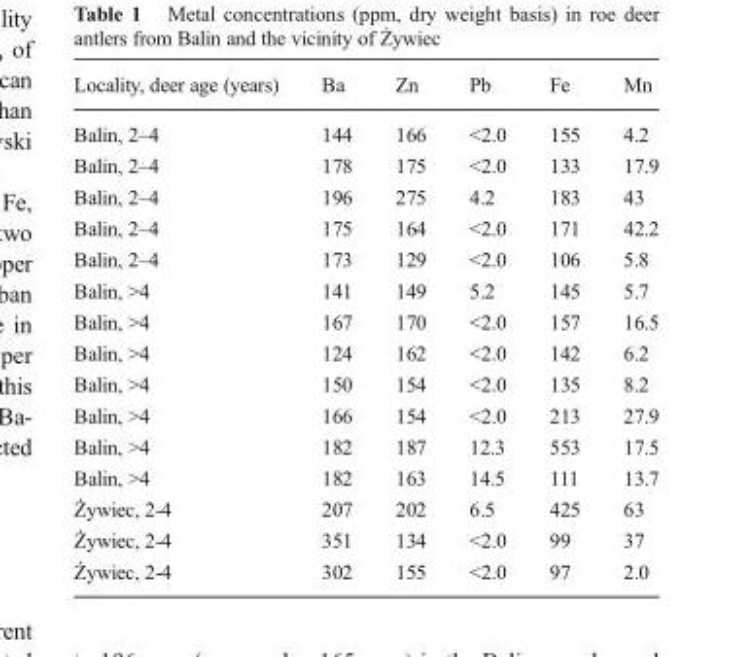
<table><thead><tr><td>Locality, deer age (years)</td><td>Ba</td><td>Zn</td><td>Pb</td><td>Fe</td><td>Mn</td></tr></thead><tbody><tr><td>Balin, 2–4</td><td>144</td><td>166</td><td>&lt;2.0</td><td>155</td><td>4.2</td></tr><tr><td>Balin, 2–4</td><td>178</td><td>175</td><td>&lt;2.0</td><td>133</td><td>17.9</td></tr><tr><td>Balin, 2–4</td><td>196</td><td>275</td><td>4.2</td><td>183</td><td>43</td></tr><tr><td>Balin, 2–4</td><td>175</td><td>164</td><td>&lt;2.0</td><td>171</td><td>42.2</td></tr><tr><td>Balin, 2–4</td><td>173</td><td>129</td><td>&lt;2.0</td><td>106</td><td>5.8</td></tr><tr><td>Balin, &gt;4</td><td>141</td><td>149</td><td>5.2</td><td>145</td><td>5.7</td></tr><tr><td>Balin, &gt;4</td><td>167</td><td>170</td><td>&lt;2.0</td><td>157</td><td>16.5</td></tr><tr><td>Balin, &gt;4</td><td>124</td><td>162</td><td>&lt;2.0</td><td>142</td><td>6.2</td></tr><tr><td>Balin, &gt;4</td><td>150</td><td>154</td><td>&lt;2.0</td><td>135</td><td>8.2</td></tr><tr><td>Balin, &gt;4</td><td>166</td><td>154</td><td>&lt;2.0</td><td>213</td><td>27.9</td></tr><tr><td>Balin, &gt;4</td><td>182</td><td>187</td><td>12.3</td><td>553</td><td>17.5</td></tr><tr><td>Balin, &gt;4</td><td>182</td><td>163</td><td>14.5</td><td>111</td><td>13.7</td></tr><tr><td>Żywiec, 2-4</td><td>207</td><td>202</td><td>6.5</td><td>425</td><td>63</td></tr><tr><td>Żywiec, 2-4</td><td>351</td><td>134</td><td>&lt;2.0</td><td>99</td><td>37</td></tr><tr><td>Żywiec, 2-4</td><td>302</td><td>155</td><td>&lt;2.0</td><td>97</td><td>2.0</td></tr></tbody></table>